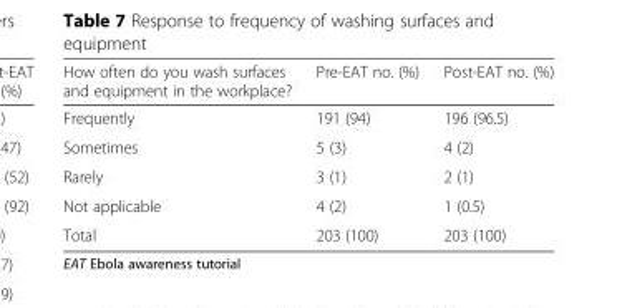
<table><thead><tr><td>How often do you wash surfaces and equipment in the workplace?</td><td>Pre-EAT no. (%)</td><td>Post-EAT no. (%)</td></tr></thead><tbody><tr><td>Frequently</td><td>191 (94)</td><td>196 (96.5)</td></tr><tr><td>Sometimes</td><td>5 (3)</td><td>4 (2)</td></tr><tr><td>Rarely</td><td>3 (1)</td><td>2 (1)</td></tr><tr><td>Not applicable</td><td>4 (2)</td><td>1 (0.5)</td></tr><tr><td>Total</td><td>203 (100)</td><td>203 (100)</td></tr></tbody></table>